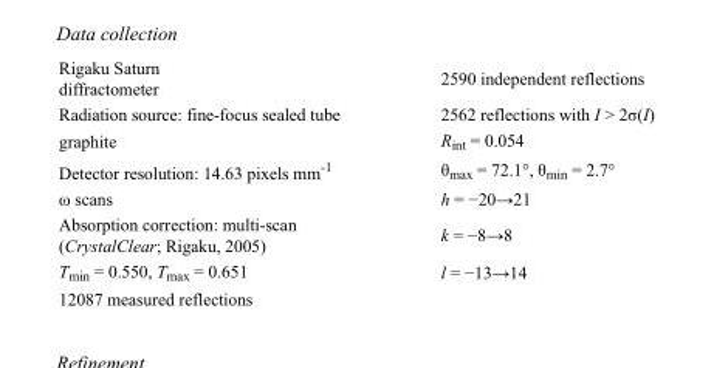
<table><tbody><tr><td>Rigaku Saturn diffractometer</td><td>2590 independent reflections</td></tr><tr><td>Radiation source: fine-focus sealed tube</td><td>2562 reflections with I &gt; 2σ(I)</td></tr><tr><td>graphite</td><td>R<sub>int</sub> = 0.054</td></tr><tr><td>Detector resolution: 14.63 pixels mm<sup>-1</sup></td><td>θ<sub>max</sub> = 72.1°, θ<sub>min</sub> = 2.7°</td></tr><tr><td>ω scans</td><td>h = −20→21</td></tr><tr><td>Absorption correction: multi-scan (CrystalClear; Rigaku, 2005)</td><td>k = −8→8</td></tr><tr><td>T<sub>min</sub> = 0.550, T<sub>max</sub> = 0.651</td><td>l = −13→14</td></tr><tr><td>12087 measured reflections</td><td></td></tr></tbody></table>